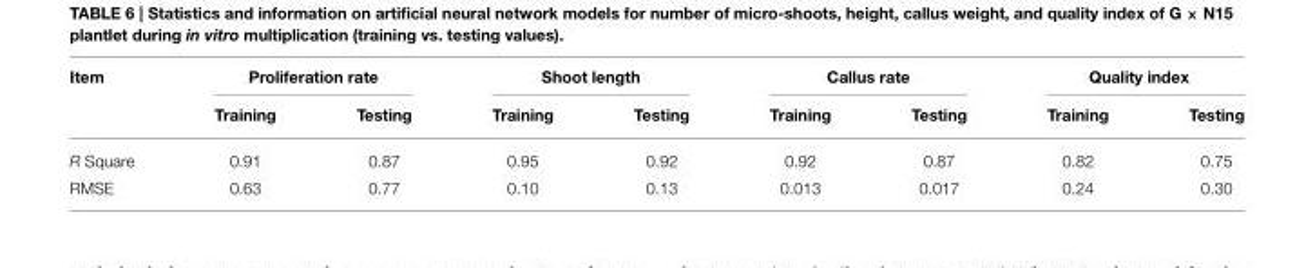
<table><thead><tr><td rowspan="2">Item</td><td colspan="2">Proliferation rate</td><td colspan="2">Shoot length</td><td colspan="2">Callus rate</td><td colspan="2">Quality index</td></tr><tr><td>Training</td><td>Testing</td><td>Training</td><td>Testing</td><td>Training</td><td>Testing</td><td>Training</td><td>Testing</td></tr></thead><tbody><tr><td>R Square</td><td>0.91</td><td>0.87</td><td>0.95</td><td>0.92</td><td>0.92</td><td>0.87</td><td>0.82</td><td>0.75</td></tr><tr><td>RMSE</td><td>0.63</td><td>0.77</td><td>0.10</td><td>0.13</td><td>0.013</td><td>0.017</td><td>0.24</td><td>0.30</td></tr></tbody></table>